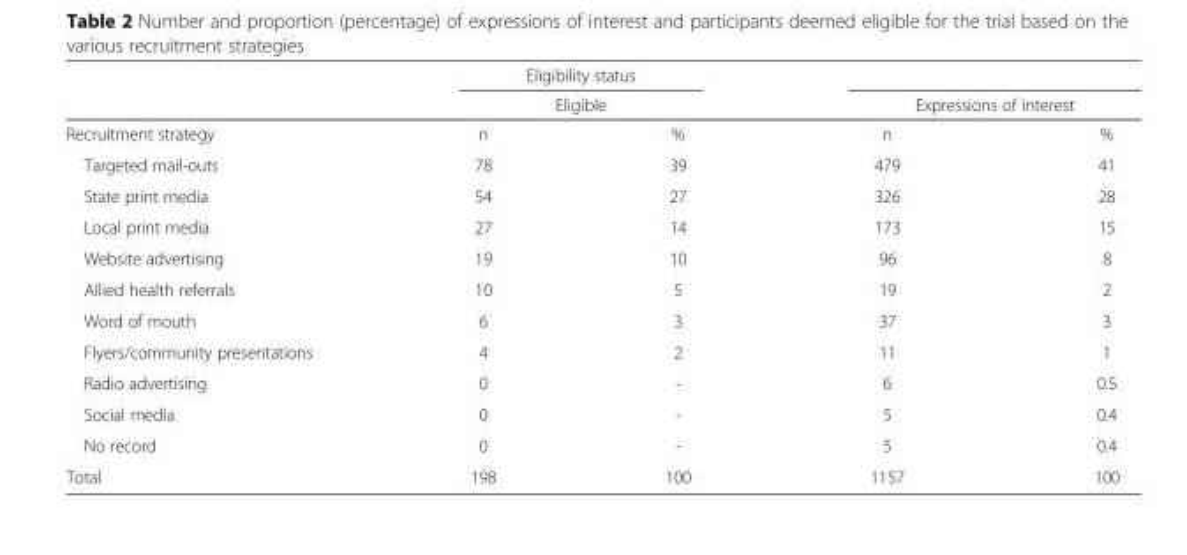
<table><thead><tr><td rowspan="3">Recruitment strategy</td><td rowspan="2" colspan="2">Eligibility status Eligible</td><td></td><td></td></tr><tr><td colspan="2">Expressions of interest</td></tr><tr><td>n</td><td>%</td><td>n</td><td>%</td></tr></thead><tbody><tr><td>Targeted mail-outs</td><td>78</td><td>39</td><td>479</td><td>41</td></tr><tr><td>State print media</td><td>54</td><td>27</td><td>326</td><td>28</td></tr><tr><td>Local print media</td><td>27</td><td>14</td><td>173</td><td>15</td></tr><tr><td>Website advertising</td><td>19</td><td>10</td><td>96</td><td>8</td></tr><tr><td>Allied health referrals</td><td>10</td><td>5</td><td>19</td><td>2</td></tr><tr><td>Word of mouth</td><td>6</td><td>3</td><td>37</td><td>3</td></tr><tr><td>Flyers/community presentations</td><td>4</td><td>2</td><td>11</td><td>1</td></tr><tr><td>Radio advertising</td><td>0</td><td>-</td><td>6</td><td>0.5</td></tr><tr><td>Social media</td><td>0</td><td>-</td><td>5</td><td>0.4</td></tr><tr><td>No record</td><td>0</td><td>-</td><td>5</td><td>0.4</td></tr><tr><td>Total</td><td>198</td><td>100</td><td>1157</td><td>100</td></tr></tbody></table>